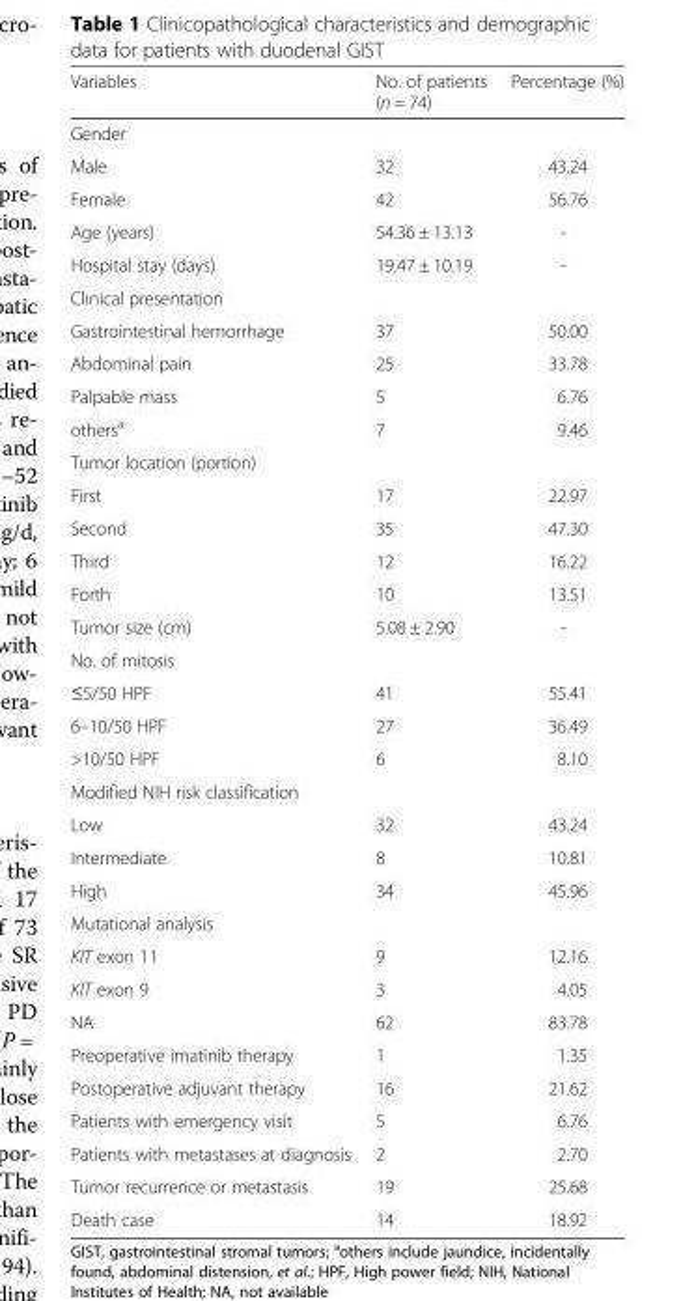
<table><thead><tr><td>Variables</td><td>No. of patients (n = 74)</td><td>Percentage (%)</td></tr></thead><tbody><tr><td colspan="3">Gender</td></tr><tr><td>Male</td><td>32</td><td>43.24</td></tr><tr><td>Female</td><td>42</td><td>56.76</td></tr><tr><td>Age (years)</td><td>54.36 ± 13.13</td><td>-</td></tr><tr><td>Hospital stay (days)</td><td>19.47 ± 10.19</td><td>-</td></tr><tr><td colspan="3">Clinical presentation</td></tr><tr><td>Gastrointestinal hemorrhage</td><td>37</td><td>50.00</td></tr><tr><td>Abdominal pain</td><td>25</td><td>33.78</td></tr><tr><td>Palpable mass</td><td>5</td><td>6.76</td></tr><tr><td>others<sup>a</sup></td><td>7</td><td>9.46</td></tr><tr><td colspan="3">Tumor location (portion)</td></tr><tr><td>First</td><td>17</td><td>22.97</td></tr><tr><td>Second</td><td>35</td><td>47.30</td></tr><tr><td>Third</td><td>12</td><td>16.22</td></tr><tr><td>Forth</td><td>10</td><td>13.51</td></tr><tr><td>Tumor size (cm)</td><td>5.08 ± 2.90</td><td>-</td></tr><tr><td colspan="3">No. of mitosis</td></tr><tr><td>≤5/50 HPF</td><td>41</td><td>55.41</td></tr><tr><td>6–10/50 HPF</td><td>27</td><td>36.49</td></tr><tr><td>&gt;10/50 HPF</td><td>6</td><td>8.10</td></tr><tr><td colspan="3">Modified NIH risk classification</td></tr><tr><td>Low</td><td>32</td><td>43.24</td></tr><tr><td>Intermediate</td><td>8</td><td>10.81</td></tr><tr><td>High</td><td>34</td><td>45.96</td></tr><tr><td colspan="3">Mutational analysis</td></tr><tr><td>KIT exon 11</td><td>9</td><td>12.16</td></tr><tr><td>KIT exon 9</td><td>3</td><td>4.05</td></tr><tr><td>NA</td><td>62</td><td>83.78</td></tr><tr><td>Preoperative imatinib therapy</td><td>1</td><td>1.35</td></tr><tr><td>Postoperative adjuvant therapy</td><td>16</td><td>21.62</td></tr><tr><td>Patients with emergency visit</td><td>5</td><td>6.76</td></tr><tr><td>Patients with metastases at diagnosis</td><td>2</td><td>2.70</td></tr><tr><td>Tumor recurrence or metastasis</td><td>19</td><td>25.68</td></tr><tr><td>Death case</td><td>14</td><td>18.92</td></tr></tbody></table>